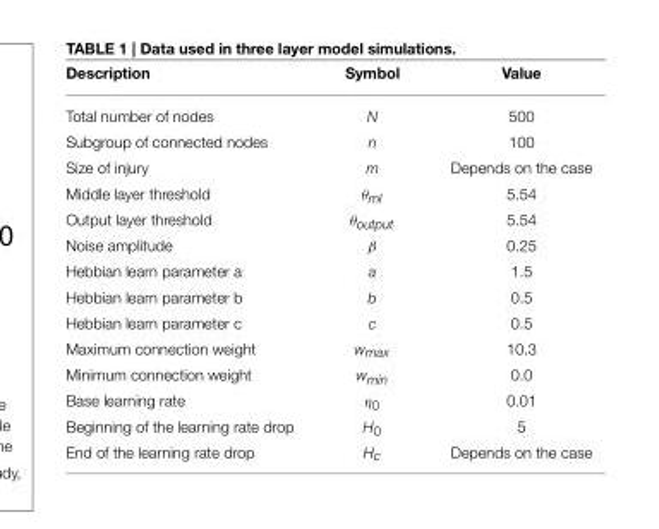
<table><thead><tr><td>Description</td><td>Symbol</td><td>Value</td></tr></thead><tbody><tr><td>Total number of nodes</td><td>N</td><td>500</td></tr><tr><td>Subgroup of connected nodes</td><td>n</td><td>100</td></tr><tr><td>Size of injury</td><td>m</td><td>Depends on the case</td></tr><tr><td>Middle layer threshold</td><td>θ<sub>ml</sub></td><td>5.54</td></tr><tr><td>Output layer threshold</td><td>θ<sub>output</sub></td><td>5.54</td></tr><tr><td>Noise amplitude</td><td>β</td><td>0.25</td></tr><tr><td>Hebbian learn parameter a</td><td>a</td><td>1.5</td></tr><tr><td>Hebbian learn parameter b</td><td>b</td><td>0.5</td></tr><tr><td>Hebbian learn parameter c</td><td>c</td><td>0.5</td></tr><tr><td>Maximum connection weight</td><td>w<sub>max</sub></td><td>10.3</td></tr><tr><td>Minimum connection weight</td><td>w<sub>min</sub></td><td>0.0</td></tr><tr><td>Base learning rate</td><td>η<sub>0</sub></td><td>0.01</td></tr><tr><td>Beginning of the learning rate drop</td><td>H<sub>0</sub></td><td>5</td></tr><tr><td>End of the learning rate drop</td><td>H<sub>c</sub></td><td>Depends on the case</td></tr></tbody></table>